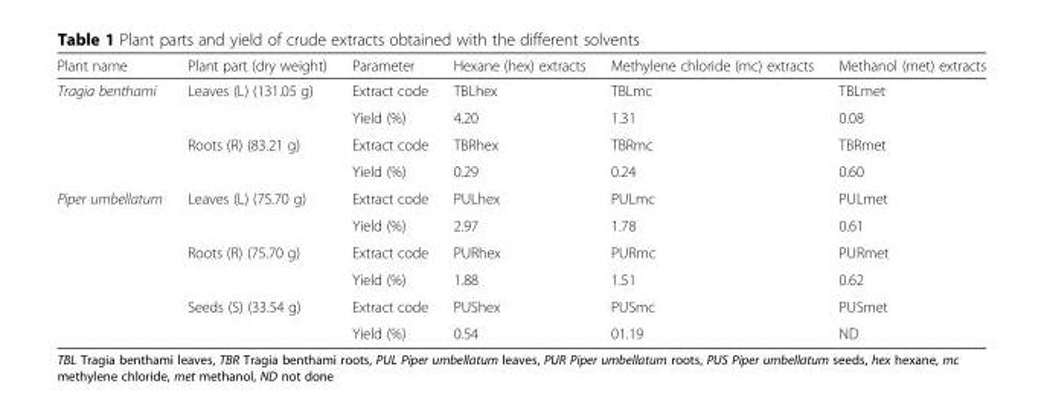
<table><thead><tr><td>Plant name</td><td>Plant part (dry weight)</td><td>Parameter</td><td>Hexane (hex) extracts</td><td>Methylene chloride (mc) extracts</td><td>Methanol (met) extracts</td></tr></thead><tbody><tr><td rowspan="4">Tragia benthami</td><td rowspan="2">Leaves (L) (131.05 g)</td><td>Extract code</td><td>TBLhex</td><td>TBLmc</td><td>TBLmet</td></tr><tr><td>Yield (%)</td><td>4.20</td><td>1.31</td><td>0.08</td></tr><tr><td rowspan="2">Roots (R) (83.21 g)</td><td>Extract code</td><td>TBRhex</td><td>TBRmc</td><td>TBRmet</td></tr><tr><td>Yield (%)</td><td>0.29</td><td>0.24</td><td>0.60</td></tr><tr><td rowspan="6">Piper umbellatum</td><td rowspan="2">Leaves (L) (75.70 g)</td><td>Extract code</td><td>PULhex</td><td>PULmc</td><td>PULmet</td></tr><tr><td>Yield (%)</td><td>2.97</td><td>1.78</td><td>0.61</td></tr><tr><td rowspan="2">Roots (R) (75.70 g)</td><td>Extract code</td><td>PURhex</td><td>PURmc</td><td>PURmet</td></tr><tr><td>Yield (%)</td><td>1.88</td><td>1.51</td><td>0.62</td></tr><tr><td rowspan="2">Seeds (S) (33.54 g)</td><td>Extract code</td><td>PUShex</td><td>PUSmc</td><td>PUSmet</td></tr><tr><td>Yield (%)</td><td>0.54</td><td>01.19</td><td>ND</td></tr></tbody></table>